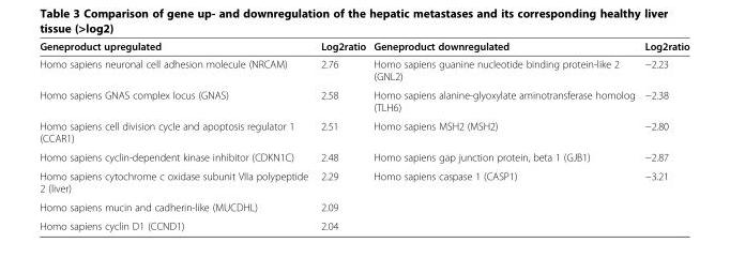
<table><thead><tr><td>Geneproduct upregulated</td><td>Log2ratio</td><td>Geneproduct downregulated</td><td>Log2ratio</td></tr></thead><tbody><tr><td>Homo sapiens neuronal cell adhesion molecule (NRCAM)</td><td>2.76</td><td>Homo sapiens guanine nucleotide binding protein-like 2 (GNL2)</td><td>−2.23</td></tr><tr><td>Homo sapiens GNAS complex locus (GNAS)</td><td>2.58</td><td>Homo sapiens alanine-glyoxylate aminotransferase homolog (TLH6)</td><td>−2.38</td></tr><tr><td>Homo sapiens cell division cycle and apoptosis regulator 1 (CCAR1)</td><td>2.51</td><td>Homo sapiens MSH2 (MSH2)</td><td>−2.80</td></tr><tr><td>Homo sapiens cyclin-dependent kinase inhibitor (CDKN1C)</td><td>2.48</td><td>Homo sapiens gap junction protein, beta 1 (GJB1)</td><td>−2.87</td></tr><tr><td>Homo sapiens cytochrome c oxidase subunit VIIa polypeptide 2 (liver)</td><td>2.29</td><td>Homo sapiens caspase 1 (CASP1)</td><td>−3.21</td></tr><tr><td>Homo sapiens mucin and cadherin-like (MUCDHL)</td><td>2.09</td><td></td><td></td></tr><tr><td>Homo sapiens cyclin D1 (CCND1)</td><td>2.04</td><td></td><td></td></tr></tbody></table>